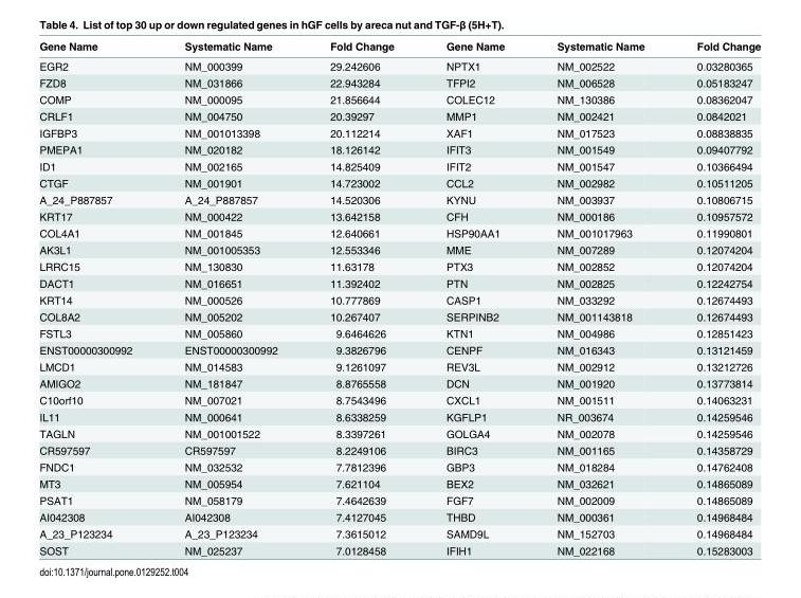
<table><thead><tr><td>Gene Name</td><td>Systematic Name</td><td>Fold Change</td><td>Gene Name</td><td>Systematic Name</td><td>Fold Change</td></tr></thead><tbody><tr><td>EGR2</td><td>NM_000399</td><td>29.242606</td><td>NPTX1</td><td>NM_002522</td><td>0.03280365</td></tr><tr><td>FZD8</td><td>NM_031866</td><td>22.943284</td><td>TFPI2</td><td>NM_006528</td><td>0.05183247</td></tr><tr><td>COMP</td><td>NM_000095</td><td>21.856644</td><td>COLEC12</td><td>NM_130386</td><td>0.08362047</td></tr><tr><td>CRLF1</td><td>NM_004750</td><td>20.39297</td><td>MMP1</td><td>NM_002421</td><td>0.0842021</td></tr><tr><td>IGFBP3</td><td>NM_001013398</td><td>20.112214</td><td>XAF1</td><td>NM_017523</td><td>0.08838835</td></tr><tr><td>PMEPA1</td><td>NM_020182</td><td>18.126142</td><td>IFIT3</td><td>NM_001549</td><td>0.09407792</td></tr><tr><td>ID1</td><td>NM_002165</td><td>14.825409</td><td>IFIT2</td><td>NM_001547</td><td>0.10366494</td></tr><tr><td>CTGF</td><td>NM_001901</td><td>14.723002</td><td>CCL2</td><td>NM_002982</td><td>0.10511205</td></tr><tr><td>A_24_P887857</td><td>A_24_P887857</td><td>14.520306</td><td>KYNU</td><td>NM_003937</td><td>0.10806715</td></tr><tr><td>KRT17</td><td>NM_000422</td><td>13.642158</td><td>CFH</td><td>NM_000186</td><td>0.10957572</td></tr><tr><td>COL4A1</td><td>NM_001845</td><td>12.640661</td><td>HSP90AA1</td><td>NM_001017963</td><td>0.11990801</td></tr><tr><td>AK3L1</td><td>NM_001005353</td><td>12.553346</td><td>MME</td><td>NM_007289</td><td>0.12074204</td></tr><tr><td>LRRC15</td><td>NM_130830</td><td>11.63178</td><td>PTX3</td><td>NM_002852</td><td>0.12074204</td></tr><tr><td>DACT1</td><td>NM_016651</td><td>11.392402</td><td>PTN</td><td>NM_002825</td><td>0.12242754</td></tr><tr><td>KRT14</td><td>NM_000526</td><td>10.777869</td><td>CASP1</td><td>NM_033292</td><td>0.12674493</td></tr><tr><td>COL8A2</td><td>NM_005202</td><td>10.267407</td><td>SERPINB2</td><td>NM_001143818</td><td>0.12674493</td></tr><tr><td>FSTL3</td><td>NM_005860</td><td>9.6464626</td><td>KTN1</td><td>NM_004986</td><td>0.12851423</td></tr><tr><td>ENST00000300992</td><td>ENST00000300992</td><td>9.3826796</td><td>CENPF</td><td>NM_016343</td><td>0.13121459</td></tr><tr><td>LMCD1</td><td>NM_014583</td><td>9.1261097</td><td>REV3L</td><td>NM_002912</td><td>0.13212726</td></tr><tr><td>AMIGO2</td><td>NM_181847</td><td>8.8765558</td><td>DCN</td><td>NM_001920</td><td>0.13773814</td></tr><tr><td>C10orf10</td><td>NM_007021</td><td>8.7543496</td><td>CXCL1</td><td>NM_001511</td><td>0.14063231</td></tr><tr><td>IL11</td><td>NM_000641</td><td>8.6338259</td><td>KGFLP1</td><td>NR_003674</td><td>0.14259546</td></tr><tr><td>TAGLN</td><td>NM_001001522</td><td>8.3397261</td><td>GOLGA4</td><td>NM_002078</td><td>0.14259546</td></tr><tr><td>CR597597</td><td>CR597597</td><td>8.2249106</td><td>BIRC3</td><td>NM_001165</td><td>0.14358729</td></tr><tr><td>FNDC1</td><td>NM_032532</td><td>7.7812396</td><td>GBP3</td><td>NM_018284</td><td>0.14762408</td></tr><tr><td>MT3</td><td>NM_005954</td><td>7.621104</td><td>BEX2</td><td>NM_032621</td><td>0.14865089</td></tr><tr><td>PSAT1</td><td>NM_058179</td><td>7.4642639</td><td>FGF7</td><td>NM_002009</td><td>0.14865089</td></tr><tr><td>AI042308</td><td>AI042308</td><td>7.4127045</td><td>THBD</td><td>NM_000361</td><td>0.14968484</td></tr><tr><td>A_23_P123234</td><td>A_23_P123234</td><td>7.3615012</td><td>SAMD9L</td><td>NM_152703</td><td>0.14968484</td></tr><tr><td>SOST</td><td>NM_025237</td><td>7.0128458</td><td>IFIH1</td><td>NM_022168</td><td>0.15283003</td></tr></tbody></table>